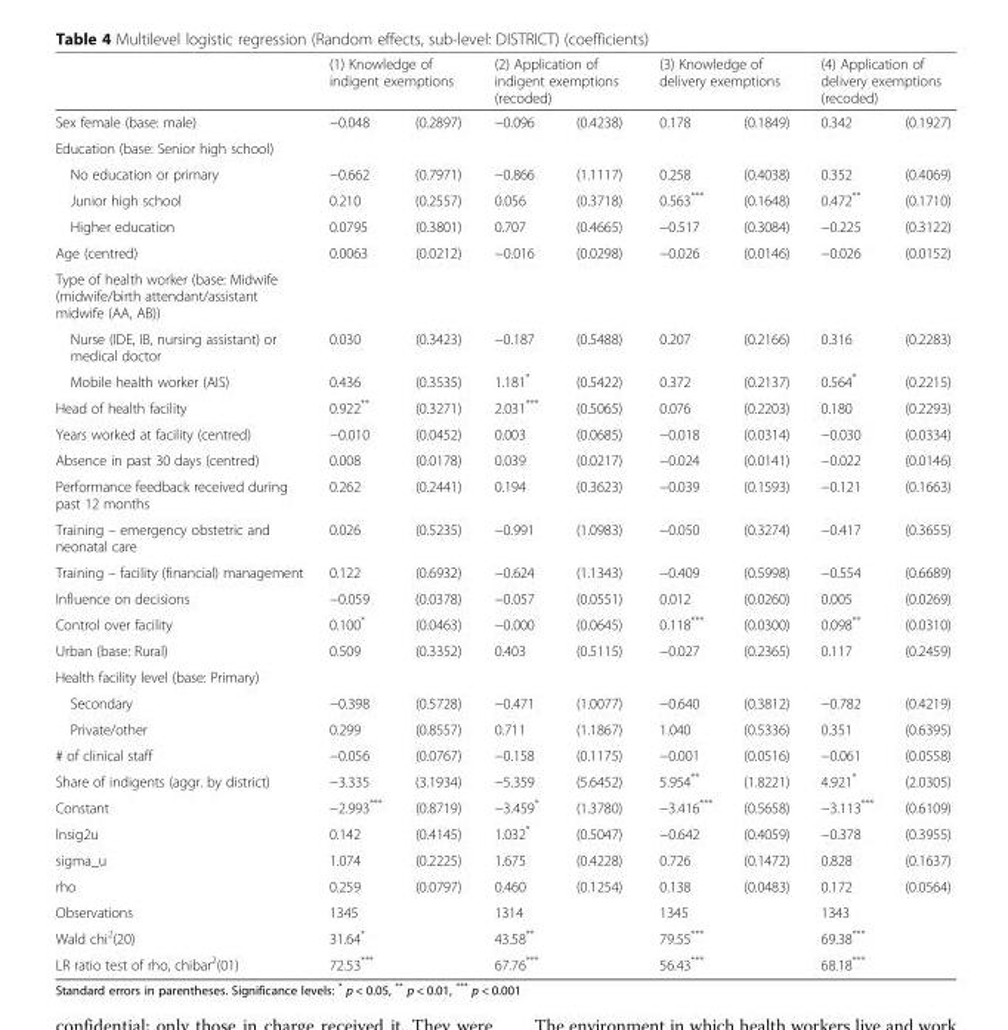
<table><thead><tr><td rowspan="2">Sex female (base: male)</td><td colspan="2">(1) Knowledge of indigent exemptions</td><td colspan="2">(2) Application of indigent exemptions (recoded)</td><td colspan="2">(3) Knowledge of delivery exemptions</td><td colspan="2">(4) Application of delivery exemptions (recoded)</td></tr><tr><td>−0.048</td><td>(0.2897)</td><td>−0.096</td><td>(0.4238)</td><td>0.178</td><td>(0.1849)</td><td>0.342</td><td>(0.1927)</td></tr></thead><tbody><tr><td colspan="9">Education (base: Senior high school)</td></tr><tr><td>No education or primary</td><td>−0.662</td><td>(0.7971)</td><td>−0.866</td><td>(1.1117)</td><td>0.258</td><td>(0.4038)</td><td>0.352</td><td>(0.4069)</td></tr><tr><td>Junior high school</td><td>0.210</td><td>(0.2557)</td><td>0.056</td><td>(0.3718)</td><td>0.563***</td><td>(0.1648)</td><td>0.472**</td><td>(0.1710)</td></tr><tr><td>Higher education</td><td>0.0795</td><td>(0.3801)</td><td>0.707</td><td>(0.4665)</td><td>−0.517</td><td>(0.3084)</td><td>−0.225</td><td>(0.3122)</td></tr><tr><td>Age (centred)</td><td>0.0063</td><td>(0.0212)</td><td>−0.016</td><td>(0.0298)</td><td>−0.026</td><td>(0.0146)</td><td>−0.026</td><td>(0.0152)</td></tr><tr><td colspan="9">Type of health worker (base: Midwife (midwife/birth attendant/assistant midwife (AA, AB))</td></tr><tr><td>Nurse (IDE, IB, nursing assistant) or medical doctor</td><td>0.030</td><td>(0.3423)</td><td>−0.187</td><td>(0.5488)</td><td>0.207</td><td>(0.2166)</td><td>0.316</td><td>(0.2283)</td></tr><tr><td>Mobile health worker (AIS)</td><td>0.436</td><td>(0.3535)</td><td>1.181*</td><td>(0.5422)</td><td>0.372</td><td>(0.2137)</td><td>0.564*</td><td>(0.2215)</td></tr><tr><td>Head of health facility</td><td>0.922**</td><td>(0.3271)</td><td>2.031***</td><td>(0.5065)</td><td>0.076</td><td>(0.2203)</td><td>0.180</td><td>(0.2293)</td></tr><tr><td>Years worked at facility (centred)</td><td>−0.010</td><td>(0.0452)</td><td>0.003</td><td>(0.0685)</td><td>−0.018</td><td>(0.0314)</td><td>−0.030</td><td>(0.0334)</td></tr><tr><td>Absence in past 30 days (centred)</td><td>0.008</td><td>(0.0178)</td><td>0.039</td><td>(0.0217)</td><td>−0.024</td><td>(0.0141)</td><td>−0.022</td><td>(0.0146)</td></tr><tr><td>Performance feedback received during past 12 months</td><td>0.262</td><td>(0.2441)</td><td>0.194</td><td>(0.3623)</td><td>−0.039</td><td>(0.1593)</td><td>−0.121</td><td>(0.1663)</td></tr><tr><td>Training – emergency obstetric and neonatal care</td><td>0.026</td><td>(0.5235)</td><td>−0.991</td><td>(1.0983)</td><td>−0.050</td><td>(0.3274)</td><td>−0.417</td><td>(0.3655)</td></tr><tr><td>Training – facility (financial) management</td><td>0.122</td><td>(0.6932)</td><td>−0.624</td><td>(1.1343)</td><td>−0.409</td><td>(0.5998)</td><td>−0.554</td><td>(0.6689)</td></tr><tr><td>Influence on decisions</td><td>−0.059</td><td>(0.0378)</td><td>−0.057</td><td>(0.0551)</td><td>0.012</td><td>(0.0260)</td><td>0.005</td><td>(0.0269)</td></tr><tr><td>Control over facility</td><td>0.100*</td><td>(0.0463)</td><td>−0.000</td><td>(0.0645)</td><td>0.118***</td><td>(0.0300)</td><td>0.098**</td><td>(0.0310)</td></tr><tr><td>Urban (base: Rural)</td><td>0.509</td><td>(0.3352)</td><td>0.403</td><td>(0.5115)</td><td>−0.027</td><td>(0.2365)</td><td>0.117</td><td>(0.2459)</td></tr><tr><td colspan="9">Health facility level (base: Primary)</td></tr><tr><td>Secondary</td><td>−0.398</td><td>(0.5728)</td><td>−0.471</td><td>(1.0077)</td><td>−0.640</td><td>(0.3812)</td><td>−0.782</td><td>(0.4219)</td></tr><tr><td>Private/other</td><td>0.299</td><td>(0.8557)</td><td>0.711</td><td>(1.1867)</td><td>1.040</td><td>(0.5336)</td><td>0.351</td><td>(0.6395)</td></tr><tr><td># of clinical staff</td><td>−0.056</td><td>(0.0767)</td><td>−0.158</td><td>(0.1175)</td><td>−0.001</td><td>(0.0516)</td><td>−0.061</td><td>(0.0558)</td></tr><tr><td>Share of indigents (aggr. by district)</td><td>−3.335</td><td>(3.1934)</td><td>−5.359</td><td>(5.6452)</td><td>5.954**</td><td>(1.8221)</td><td>4.921*</td><td>(2.0305)</td></tr><tr><td>Constant</td><td>−2.993***</td><td>(0.8719)</td><td>−3.459*</td><td>(1.3780)</td><td>−3.416***</td><td>(0.5658)</td><td>−3.113***</td><td>(0.6109)</td></tr><tr><td>lnsig2u</td><td>0.142</td><td>(0.4145)</td><td>1.032*</td><td>(0.5047)</td><td>−0.642</td><td>(0.4059)</td><td>−0.378</td><td>(0.3955)</td></tr><tr><td>sigma_u</td><td>1.074</td><td>(0.2225)</td><td>1.675</td><td>(0.4228)</td><td>0.726</td><td>(0.1472)</td><td>0.828</td><td>(0.1637)</td></tr><tr><td>rho</td><td>0.259</td><td>(0.0797)</td><td>0.460</td><td>(0.1254)</td><td>0.138</td><td>(0.0483)</td><td>0.172</td><td>(0.0564)</td></tr><tr><td>Observations</td><td>1345</td><td></td><td>1314</td><td></td><td>1345</td><td></td><td>1343</td><td></td></tr><tr><td>Wald chi<sup>2</sup>(20)</td><td>31.64*</td><td></td><td>43.58**</td><td></td><td>79.55***</td><td></td><td>69.38***</td><td></td></tr><tr><td>LR ratio test of rho, chibar<sup>2</sup>(01)</td><td>72.53***</td><td></td><td>67.76***</td><td></td><td>56.43***</td><td></td><td>68.18***</td><td></td></tr></tbody></table>